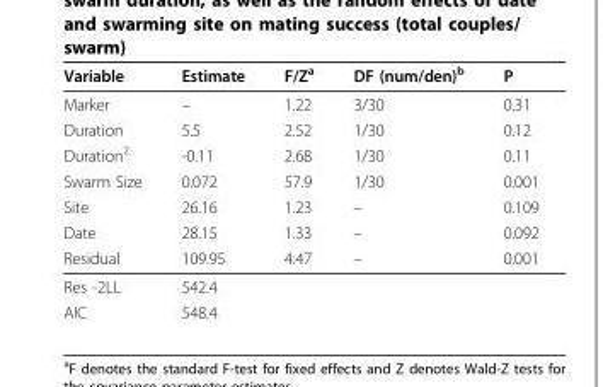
<table><thead><tr><td>Variable</td><td>Estimate</td><td>F/Z<sup>a</sup></td><td>DF (num/den)<sup>b</sup></td><td>P</td></tr></thead><tbody><tr><td>Marker</td><td>–</td><td>1.22</td><td>3/30</td><td>0.31</td></tr><tr><td>Duration</td><td>5.5</td><td>2.52</td><td>1/30</td><td>0.12</td></tr><tr><td>Duration<sup>2</sup></td><td>-0.11</td><td>2.68</td><td>1/30</td><td>0.11</td></tr><tr><td>Swarm Size</td><td>0.072</td><td>57.9</td><td>1/30</td><td>0.001</td></tr><tr><td>Site</td><td>26.16</td><td>1.23</td><td>–</td><td>0.109</td></tr><tr><td>Date</td><td>28.15</td><td>1.33</td><td>–</td><td>0.092</td></tr><tr><td>Residual</td><td>109.95</td><td>4.47</td><td>–</td><td>0.001</td></tr><tr><td>Res -2LL</td><td>542.4</td><td></td><td></td><td></td></tr><tr><td>AIC</td><td>548.4</td><td></td><td></td><td></td></tr></tbody></table>